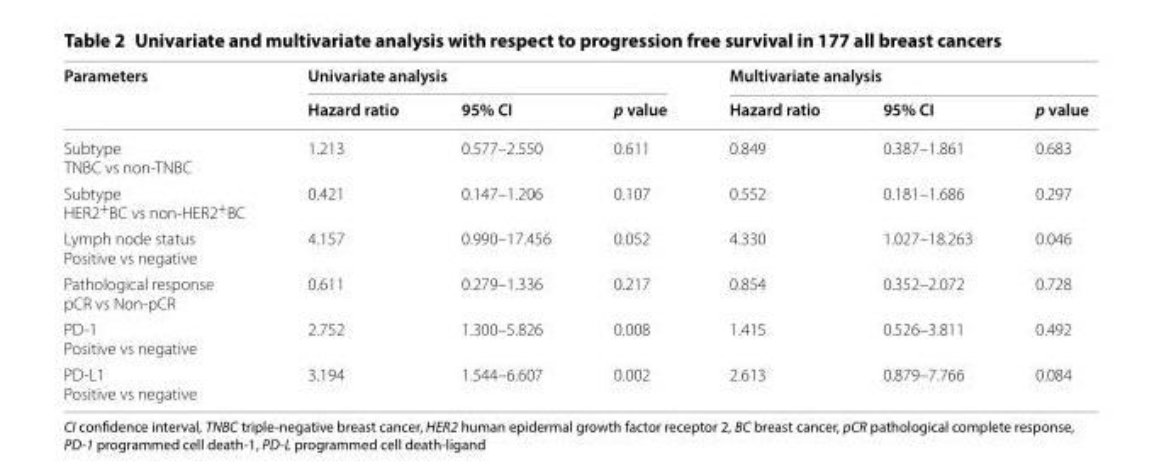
<table><thead><tr><td rowspan="2">Parameters</td><td colspan="3">Univariate analysis</td><td colspan="3">Multivariate analysis</td></tr><tr><td>Hazard ratio</td><td>95% CI</td><td>p value</td><td>Hazard ratio</td><td>95% CI</td><td>p value</td></tr></thead><tbody><tr><td>Subtype TNBC vs non-TNBC</td><td>1.213</td><td>0.577–2.550</td><td>0.611</td><td>0.849</td><td>0.387–1.861</td><td>0.683</td></tr><tr><td>Subtype HER2<sup>+</sup>BC vs non-HER2<sup>+</sup>BC</td><td>0.421</td><td>0.147–1.206</td><td>0.107</td><td>0.552</td><td>0.181–1.686</td><td>0.297</td></tr><tr><td>Lymph node status Positive vs negative</td><td>4.157</td><td>0.990–17.456</td><td>0.052</td><td>4.330</td><td>1.027–18.263</td><td>0.046</td></tr><tr><td>Pathological response pCR vs Non-pCR</td><td>0.611</td><td>0.279–1.336</td><td>0.217</td><td>0.854</td><td>0.352–2.072</td><td>0.728</td></tr><tr><td>PD-1 Positive vs negative</td><td>2.752</td><td>1.300–5.826</td><td>0.008</td><td>1.415</td><td>0.526–3.811</td><td>0.492</td></tr><tr><td>PD-L1 Positive vs negative</td><td>3.194</td><td>1.544–6.607</td><td>0.002</td><td>2.613</td><td>0.879–7.766</td><td>0.084</td></tr></tbody></table>